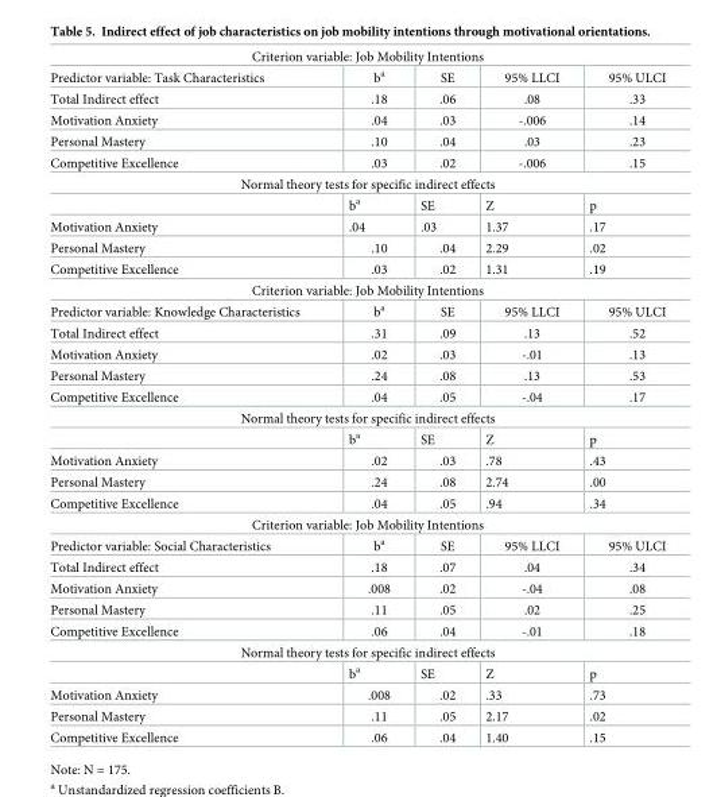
<table><tbody><tr><td colspan="5">Criterion variable: Job Mobility Intentions</td></tr><tr><td>Predictor variable: Task Characteristics</td><td>b<sup>a</sup></td><td>SE</td><td>95% LLCI</td><td>95% ULCI</td></tr><tr><td>Total Indirect effect</td><td>.18</td><td>.06</td><td>.08</td><td>.33</td></tr><tr><td>Motivation Anxiety</td><td>.04</td><td>.03</td><td>-.006</td><td>.14</td></tr><tr><td>Personal Mastery</td><td>.10</td><td>.04</td><td>.03</td><td>.23</td></tr><tr><td>Competitive Excellence</td><td>.03</td><td>.02</td><td>-.006</td><td>.15</td></tr><tr><td colspan="5">Normal theory tests for specific indirect effects</td></tr><tr><td></td><td>b<sup>a</sup></td><td>SE</td><td>Z</td><td>p</td></tr><tr><td>Motivation Anxiety</td><td>.04</td><td>.03</td><td>1.37</td><td>.17</td></tr><tr><td>Personal Mastery</td><td>.10</td><td>.04</td><td>2.29</td><td>.02</td></tr><tr><td>Competitive Excellence</td><td>.03</td><td>.02</td><td>1.31</td><td>.19</td></tr><tr><td colspan="5">Criterion variable: Job Mobility Intentions</td></tr><tr><td>Predictor variable: Knowledge Characteristics</td><td>b<sup>a</sup></td><td>SE</td><td>95% LLCI</td><td>95% ULCI</td></tr><tr><td>Total Indirect effect</td><td>.31</td><td>.09</td><td>.13</td><td>.52</td></tr><tr><td>Motivation Anxiety</td><td>.02</td><td>.03</td><td>-.01</td><td>.13</td></tr><tr><td>Personal Mastery</td><td>.24</td><td>.08</td><td>.13</td><td>.53</td></tr><tr><td>Competitive Excellence</td><td>.04</td><td>.05</td><td>-.04</td><td>.17</td></tr><tr><td colspan="5">Normal theory tests for specific indirect effects</td></tr><tr><td></td><td>b<sup>a</sup></td><td>SE</td><td>Z</td><td>p</td></tr><tr><td>Motivation Anxiety</td><td>.02</td><td>.03</td><td>.78</td><td>.43</td></tr><tr><td>Personal Mastery</td><td>.24</td><td>.08</td><td>2.74</td><td>.00</td></tr><tr><td>Competitive Excellence</td><td>.04</td><td>.05</td><td>.94</td><td>.34</td></tr><tr><td colspan="5">Criterion variable: Job Mobility Intentions</td></tr><tr><td>Predictor variable: Social Characteristics</td><td>b<sup>a</sup></td><td>SE</td><td>95% LLCI</td><td>95% ULCI</td></tr><tr><td>Total Indirect effect</td><td>.18</td><td>.07</td><td>.04</td><td>.34</td></tr><tr><td>Motivation Anxiety</td><td>.008</td><td>.02</td><td>-.04</td><td>.08</td></tr><tr><td>Personal Mastery</td><td>.11</td><td>.05</td><td>.02</td><td>.25</td></tr><tr><td>Competitive Excellence</td><td>.06</td><td>.04</td><td>-.01</td><td>.18</td></tr><tr><td colspan="5">Normal theory tests for specific indirect effects</td></tr><tr><td></td><td>b<sup>a</sup></td><td>SE</td><td>Z</td><td>p</td></tr><tr><td>Motivation Anxiety</td><td>.008</td><td>.02</td><td>.33</td><td>.73</td></tr><tr><td>Personal Mastery</td><td>.11</td><td>.05</td><td>2.17</td><td>.02</td></tr><tr><td>Competitive Excellence</td><td>.06</td><td>.04</td><td>1.40</td><td>.15</td></tr></tbody></table>